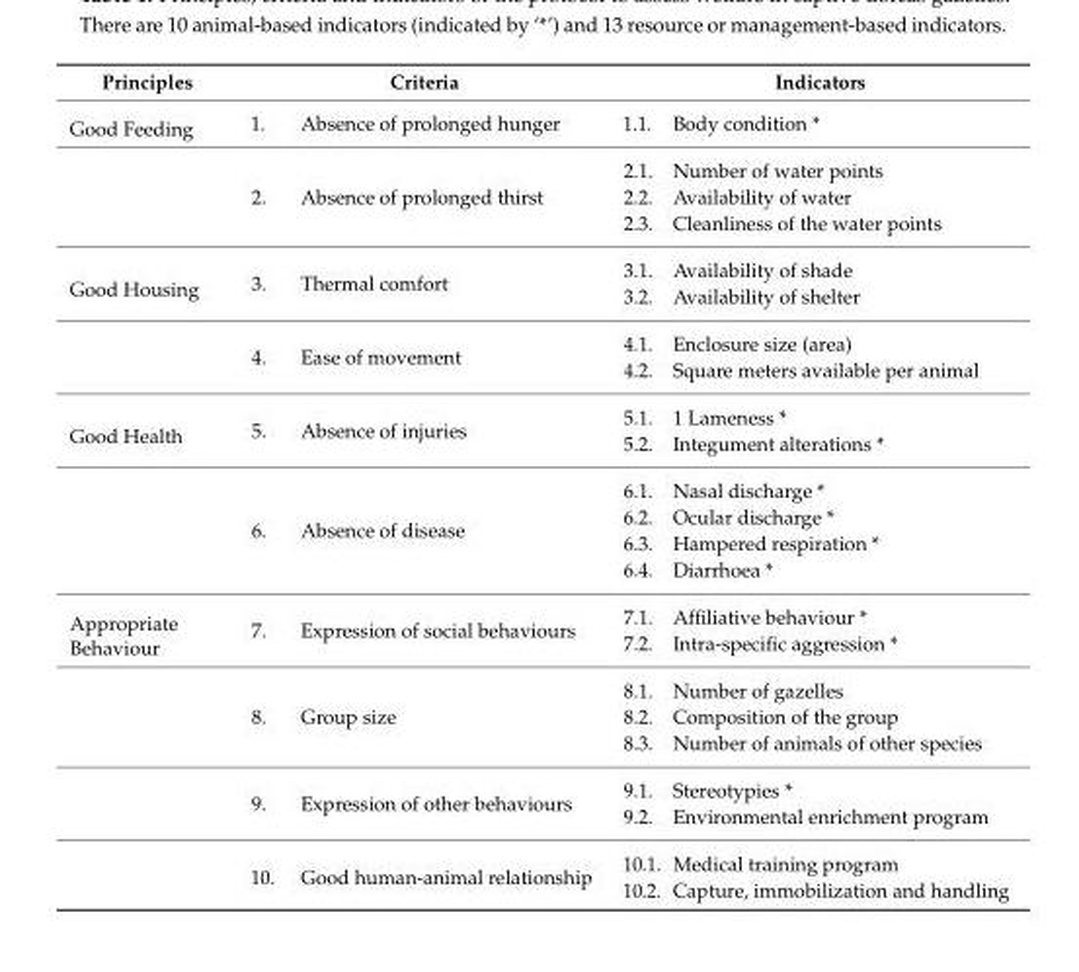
<table><thead><tr><td>Principles</td><td>Criteria</td><td>Indicators</td></tr></thead><tbody><tr><td rowspan="2">Good Feeding</td><td>1. Absence of prolonged hunger</td><td>1.1. Body condition *</td></tr><tr><td>2. Absence of prolonged thirst</td><td>2.1. Number of water points 2.2. Availability of water 2.3. Cleanliness of the water points</td></tr><tr><td rowspan="2">Good Housing</td><td>3. Thermal comfort</td><td>3.1. Availability of shade 3.2. Availability of shelter</td></tr><tr><td>4. Ease of movement</td><td>4.1. Enclosure size (area) 4.2. Square meters available per animal</td></tr><tr><td rowspan="2">Good Health</td><td>5. Absence of injuries</td><td>5.1. 1 Lameness * 5.2. Integument alterations *</td></tr><tr><td>6. Absence of disease</td><td>6.1. Nasal discharge * 6.2. Ocular discharge * 6.3. Hampered respiration * 6.4. Diarrhoea *</td></tr><tr><td rowspan="4">Appropriate Behaviour</td><td>7. Expression of social behaviours</td><td>7.1. Affiliative behaviour * 7.2. Intra-specific aggression *</td></tr><tr><td>8. Group size</td><td>8.1. Number of gazelles 8.2. Composition of the group 8.3. Number of animals of other species</td></tr><tr><td>9. Expression of other behaviours</td><td>9.1. Stereotypies * 9.2. Environmental enrichment program</td></tr><tr><td>10. Good human-animal relationship</td><td>10.1. Medical training program 10.2. Capture, immobilization and handling</td></tr></tbody></table>